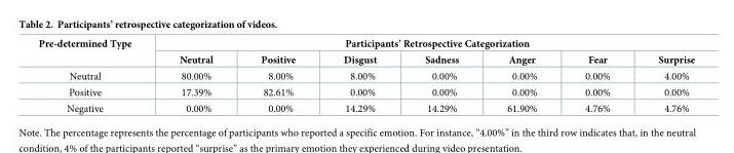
<table><thead><tr><td rowspan="2">Pre-determined Type</td><td colspan="7">Participants’ Retrospective Categorization</td></tr><tr><td>Neutral</td><td>Positive</td><td>Disgust</td><td>Sadness</td><td>Anger</td><td>Fear</td><td>Surprise</td></tr></thead><tbody><tr><td>Neutral</td><td>80.00%</td><td>8.00%</td><td>8.00%</td><td>0.00%</td><td>0.00%</td><td>0.00%</td><td>4.00%</td></tr><tr><td>Positive</td><td>17.39%</td><td>82.61%</td><td>0.00%</td><td>0.00%</td><td>0.00%</td><td>0.00%</td><td>0.00%</td></tr><tr><td>Negative</td><td>0.00%</td><td>0.00%</td><td>14.29%</td><td>14.29%</td><td>61.90%</td><td>4.76%</td><td>4.76%</td></tr></tbody></table>